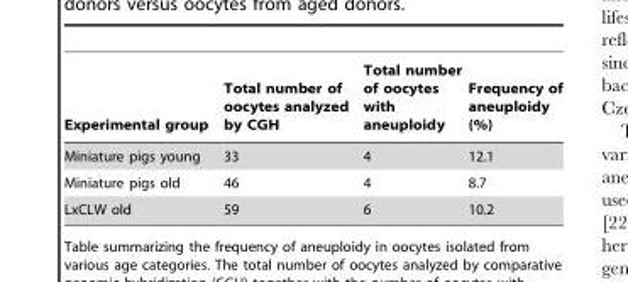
<table><thead><tr><td>Experimental group</td><td>Total number of oocytes analyzed by CGH</td><td>Total number of oocytes with aneuploidy</td><td>Frequency of aneuploidy (%)</td></tr></thead><tbody><tr><td>Miniature pigs young</td><td>33</td><td>4</td><td>12.1</td></tr><tr><td>Miniature pigs old</td><td>46</td><td>4</td><td>8.7</td></tr><tr><td>LxCLW old</td><td>59</td><td>6</td><td>10.2</td></tr></tbody></table>